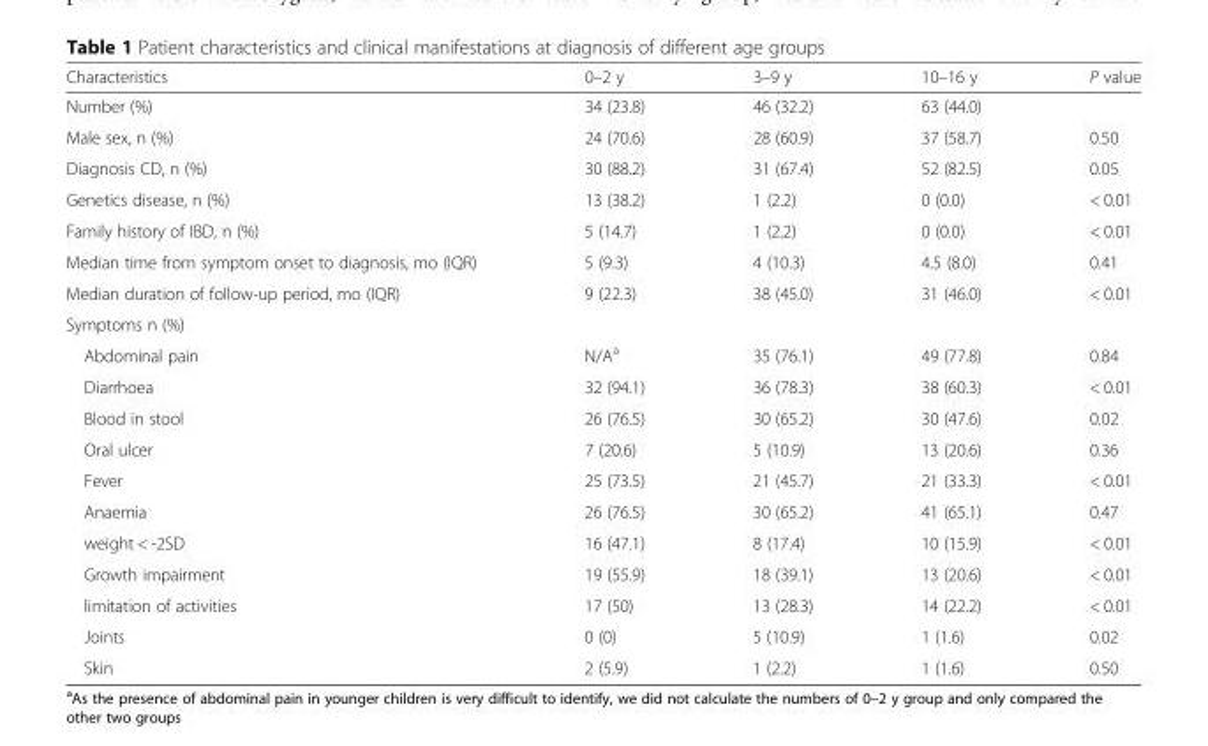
<table><thead><tr><td>Characteristics</td><td>0–2 y</td><td>3–9 y</td><td>10–16 y</td><td>P value</td></tr></thead><tbody><tr><td>Number (%)</td><td>34 (23.8)</td><td>46 (32.2)</td><td>63 (44.0)</td><td></td></tr><tr><td>Male sex, n (%)</td><td>24 (70.6)</td><td>28 (60.9)</td><td>37 (58.7)</td><td>0.50</td></tr><tr><td>Diagnosis CD, n (%)</td><td>30 (88.2)</td><td>31 (67.4)</td><td>52 (82.5)</td><td>0.05</td></tr><tr><td>Genetics disease, n (%)</td><td>13 (38.2)</td><td>1 (2.2)</td><td>0 (0.0)</td><td>&lt; 0.01</td></tr><tr><td>Family history of IBD, n (%)</td><td>5 (14.7)</td><td>1 (2.2)</td><td>0 (0.0)</td><td>&lt; 0.01</td></tr><tr><td>Median time from symptom onset to diagnosis, mo (IQR)</td><td>5 (9.3)</td><td>4 (10.3)</td><td>4.5 (8.0)</td><td>0.41</td></tr><tr><td>Median duration of follow-up period, mo (IQR)</td><td>9 (22.3)</td><td>38 (45.0)</td><td>31 (46.0)</td><td>&lt; 0.01</td></tr><tr><td colspan="5">Symptoms n (%)</td></tr><tr><td>Abdominal pain</td><td>N/A<sup>a</sup></td><td>35 (76.1)</td><td>49 (77.8)</td><td>0.84</td></tr><tr><td>Diarrhoea</td><td>32 (94.1)</td><td>36 (78.3)</td><td>38 (60.3)</td><td>&lt; 0.01</td></tr><tr><td>Blood in stool</td><td>26 (76.5)</td><td>30 (65.2)</td><td>30 (47.6)</td><td>0.02</td></tr><tr><td>Oral ulcer</td><td>7 (20.6)</td><td>5 (10.9)</td><td>13 (20.6)</td><td>0.36</td></tr><tr><td>Fever</td><td>25 (73.5)</td><td>21 (45.7)</td><td>21 (33.3)</td><td>&lt; 0.01</td></tr><tr><td>Anaemia</td><td>26 (76.5)</td><td>30 (65.2)</td><td>41 (65.1)</td><td>0.47</td></tr><tr><td>weight &lt; -2SD</td><td>16 (47.1)</td><td>8 (17.4)</td><td>10 (15.9)</td><td>&lt; 0.01</td></tr><tr><td>Growth impairment</td><td>19 (55.9)</td><td>18 (39.1)</td><td>13 (20.6)</td><td>&lt; 0.01</td></tr><tr><td>limitation of activities</td><td>17 (50)</td><td>13 (28.3)</td><td>14 (22.2)</td><td>&lt; 0.01</td></tr><tr><td>Joints</td><td>0 (0)</td><td>5 (10.9)</td><td>1 (1.6)</td><td>0.02</td></tr><tr><td>Skin</td><td>2 (5.9)</td><td>1 (2.2)</td><td>1 (1.6)</td><td>0.50</td></tr></tbody></table>